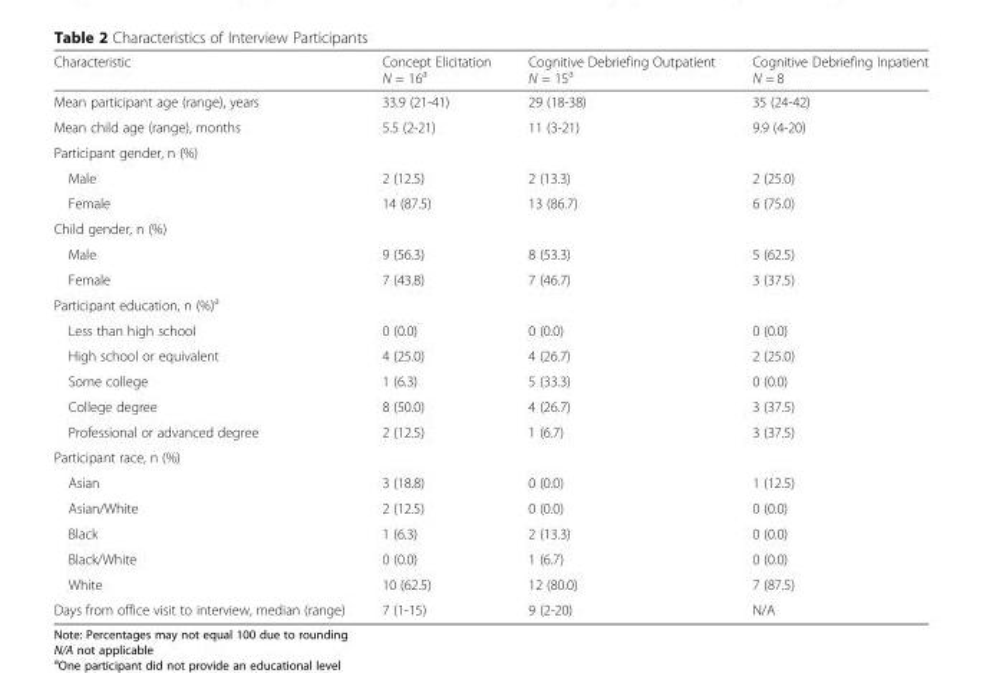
<table><thead><tr><td>Characteristic</td><td>Concept Elicitation N = 16<sup>a</sup></td><td>Cognitive Debriefing Outpatient N = 15<sup>a</sup></td><td>Cognitive Debriefing Inpatient N = 8</td></tr></thead><tbody><tr><td>Mean participant age (range), years</td><td>33.9 (21-41)</td><td>29 (18-38)</td><td>35 (24-42)</td></tr><tr><td>Mean child age (range), months</td><td>5.5 (2-21)</td><td>11 (3-21)</td><td>9.9 (4-20)</td></tr><tr><td colspan="4">Participant gender, n (%)</td></tr><tr><td>Male</td><td>2 (12.5)</td><td>2 (13.3)</td><td>2 (25.0)</td></tr><tr><td>Female</td><td>14 (87.5)</td><td>13 (86.7)</td><td>6 (75.0)</td></tr><tr><td colspan="4">Child gender, n (%)</td></tr><tr><td>Male</td><td>9 (56.3)</td><td>8 (53.3)</td><td>5 (62.5)</td></tr><tr><td>Female</td><td>7 (43.8)</td><td>7 (46.7)</td><td>3 (37.5)</td></tr><tr><td colspan="4">Participant education, n (%)<sup>a</sup></td></tr><tr><td>Less than high school</td><td>0 (0.0)</td><td>0 (0.0)</td><td>0 (0.0)</td></tr><tr><td>High school or equivalent</td><td>4 (25.0)</td><td>4 (26.7)</td><td>2 (25.0)</td></tr><tr><td>Some college</td><td>1 (6.3)</td><td>5 (33.3)</td><td>0 (0.0)</td></tr><tr><td>College degree</td><td>8 (50.0)</td><td>4 (26.7)</td><td>3 (37.5)</td></tr><tr><td>Professional or advanced degree</td><td>2 (12.5)</td><td>1 (6.7)</td><td>3 (37.5)</td></tr><tr><td colspan="4">Participant race, n (%)</td></tr><tr><td>Asian</td><td>3 (18.8)</td><td>0 (0.0)</td><td>1 (12.5)</td></tr><tr><td>Asian/White</td><td>2 (12.5)</td><td>0 (0.0)</td><td>0 (0.0)</td></tr><tr><td>Black</td><td>1 (6.3)</td><td>2 (13.3)</td><td>0 (0.0)</td></tr><tr><td>Black/White</td><td>0 (0.0)</td><td>1 (6.7)</td><td>0 (0.0)</td></tr><tr><td>White</td><td>10 (62.5)</td><td>12 (80.0)</td><td>7 (87.5)</td></tr><tr><td>Days from office visit to interview, median (range)</td><td>7 (1-15)</td><td>9 (2-20)</td><td>N/A</td></tr></tbody></table>